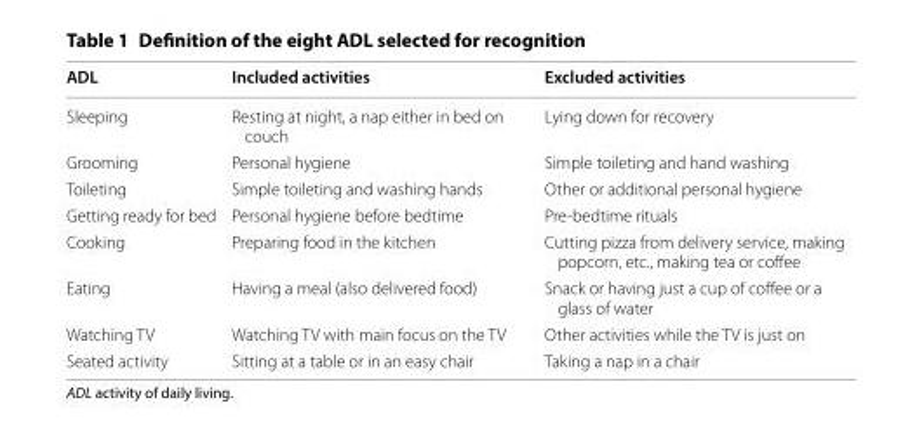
<table><thead><tr><td>ADL</td><td>Included activities</td><td>Excluded activities</td></tr></thead><tbody><tr><td>Sleeping</td><td>Resting at night, a nap either in bed on couch</td><td>Lying down for recovery</td></tr><tr><td>Grooming</td><td>Personal hygiene</td><td>Simple toileting and hand washing</td></tr><tr><td>Toileting</td><td>Simple toileting and washing hands</td><td>Other or additional personal hygiene</td></tr><tr><td>Getting ready for bed</td><td>Personal hygiene before bedtime</td><td>Pre-bedtime rituals</td></tr><tr><td>Cooking</td><td>Preparing food in the kitchen</td><td>Cutting pizza from delivery service, making popcorn, etc., making tea or coffee</td></tr><tr><td>Eating</td><td>Having a meal (also delivered food)</td><td>Snack or having just a cup of coffee or a glass of water</td></tr><tr><td>Watching TV</td><td>Watching TV with main focus on the TV</td><td>Other activities while the TV is just on</td></tr><tr><td>Seated activity</td><td>Sitting at a table or in an easy chair</td><td>Taking a nap in a chair</td></tr></tbody></table>